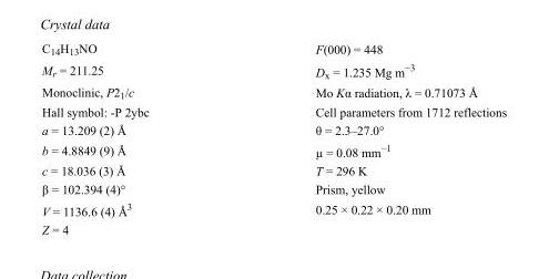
<table><tbody><tr><td>C<sub>14</sub>H<sub>13</sub>NO</td><td>F(000) = 448</td></tr><tr><td>M<sub>r</sub> = 211.25</td><td>D<sub>x</sub> = 1.235 Mg m<sup>−3</sup></td></tr><tr><td>Monoclinic, P2<sub>1</sub>/c</td><td>Mo Kα radiation, λ = 0.71073 Å</td></tr><tr><td>Hall symbol: -P 2ybc</td><td>Cell parameters from 1712 reflections</td></tr><tr><td>a = 13.209 (2) Å</td><td>θ = 2.3–27.0°</td></tr><tr><td>b = 4.8849 (9) Å</td><td>µ = 0.08 mm<sup>−1</sup></td></tr><tr><td>c = 18.036 (3) Å</td><td>T = 296 K</td></tr><tr><td>β = 102.394 (4)°</td><td>Prism, yellow</td></tr><tr><td>V = 1136.6 (4) Å<sup>3</sup></td><td>0.25 × 0.22 × 0.20 mm</td></tr><tr><td>Z = 4</td><td></td></tr></tbody></table>